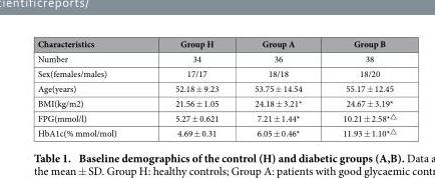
<table><thead><tr><td>Characteristics</td><td>Group H</td><td>Group A</td><td>Group B</td></tr></thead><tbody><tr><td>Number</td><td>34</td><td>36</td><td>38</td></tr><tr><td>Sex(females/males)</td><td>17/17</td><td>18/18</td><td>18/20</td></tr><tr><td>Age(years)</td><td>52.18 ± 9.23</td><td>53.75 ± 14.54</td><td>55.17 ± 12.45</td></tr><tr><td>BMI(kg/m2)</td><td>21.56 ± 1.05</td><td>24.18 ± 3.21*</td><td>24.67 ± 3.19*</td></tr><tr><td>FPG(mmol/l)</td><td>5.27 ± 0.621</td><td>7.21 ± 1.44*</td><td>10.21 ± 2.58*<sup>△</sup></td></tr><tr><td>HbA1c(% mmol/mol)</td><td>4.69 ± 0.31</td><td>6.05 ± 0.46*</td><td>11.93 ± 1.10*<sup>△</sup></td></tr></tbody></table>